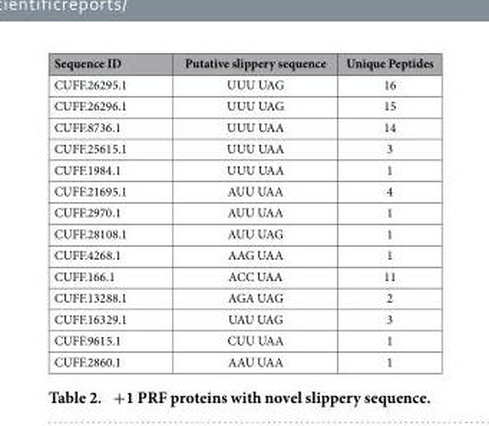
<table><thead><tr><td>Sequence ID</td><td>Putative slippery sequence</td><td>Unique Peptides</td></tr></thead><tbody><tr><td>CUFF.26295.1</td><td>UUU UAG</td><td>16</td></tr><tr><td>CUFF.26296.1</td><td>UUU UAG</td><td>15</td></tr><tr><td>CUFF.8736.1</td><td>UUU UAA</td><td>14</td></tr><tr><td>CUFF.25615.1</td><td>UUU UAA</td><td>3</td></tr><tr><td>CUFF.1984.1</td><td>UUU UAA</td><td>1</td></tr><tr><td>CUFF.21695.1</td><td>AUU UAA</td><td>4</td></tr><tr><td>CUFF.2970.1</td><td>AUU UAA</td><td>1</td></tr><tr><td>CUFF.28108.1</td><td>AUU UAG</td><td>1</td></tr><tr><td>CUFF.4268.1</td><td>AAG UAA</td><td>1</td></tr><tr><td>CUFF.166.1</td><td>ACC UAA</td><td>11</td></tr><tr><td>CUFF.13288.1</td><td>AGA UAG</td><td>2</td></tr><tr><td>CUFF.16329.1</td><td>UAU UAG</td><td>3</td></tr><tr><td>CUFF.9615.1</td><td>CUU UAA</td><td>1</td></tr><tr><td>CUFF.2860.1</td><td>AAU UAA</td><td>1</td></tr></tbody></table>